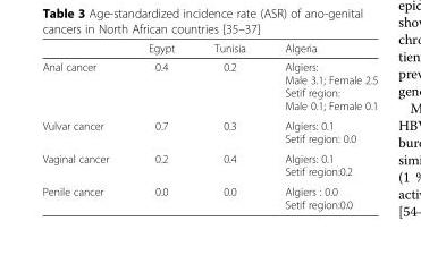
<table><thead><tr><td></td><td>Egypt</td><td>Tunisia</td><td>Algeria</td></tr></thead><tbody><tr><td>Anal cancer</td><td>0.4</td><td>0.2</td><td>Algiers: Male 3.1; Female 2.5 Setif region: Male 0.1; Female 0.1</td></tr><tr><td>Vulvar cancer</td><td>0.7</td><td>0.3</td><td>Algiers: 0.1 Setif region: 0.0</td></tr><tr><td>Vaginal cancer</td><td>0.2</td><td>0.4</td><td>Algiers: 0.1 Setif region:0.2</td></tr><tr><td>Penile cancer</td><td>0.0</td><td>0.0</td><td>Algiers : 0.0 Setif region:0.0</td></tr></tbody></table>